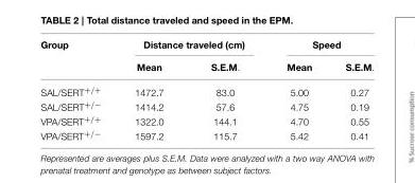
<table><thead><tr><td rowspan="2">Group</td><td colspan="2">Distance traveled (cm)</td><td colspan="2">Speed</td></tr><tr><td>Mean</td><td>S.E.M.</td><td>Mean</td><td>S.E.M.</td></tr></thead><tbody><tr><td>SAL/SERT<sup>+/+</sup></td><td>1472.7</td><td>83.0</td><td>5.00</td><td>0.27</td></tr><tr><td>SAL/SERT<sup>+/−</sup></td><td>1414.2</td><td>57.6</td><td>4.75</td><td>0.19</td></tr><tr><td>VPA/SERT<sup>+/+</sup></td><td>1322.0</td><td>144.1</td><td>4.70</td><td>0.55</td></tr><tr><td>VPA/SERT<sup>+/−</sup></td><td>1597.2</td><td>115.7</td><td>5.42</td><td>0.41</td></tr></tbody></table>